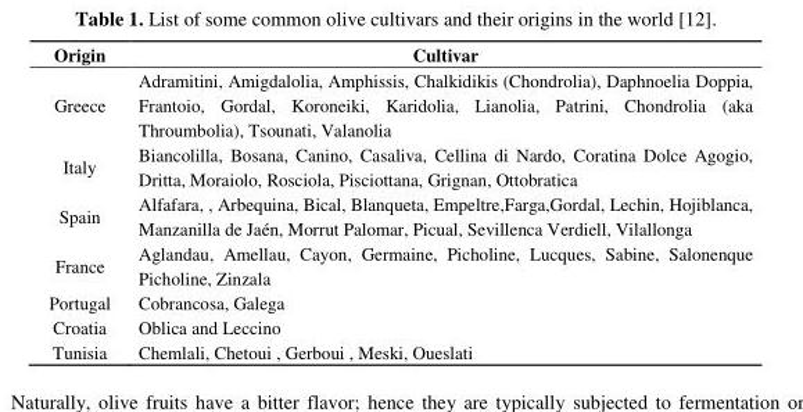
<table><thead><tr><td>Origin</td><td>Cultivar</td></tr></thead><tbody><tr><td>Greece</td><td>Adramitini, Amigdalolia, Amphissis, Chalkidikis (Chondrolia), Daphnoelia Doppia, Frantoio, Gordal, Koroneiki, Karidolia, Lianolia, Patrini, Chondrolia (aka Throumbolia), Tsounati, Valanolia</td></tr><tr><td>Italy</td><td>Biancolilla, Bosana, Canino, Casaliva, Cellina di Nardo, Coratina Dolce Agogio, Dritta, Moraiolo, Rosciola, Pisciottana, Grignan, Ottobratica</td></tr><tr><td>Spain</td><td>Alfafara, , Arbequina, Bical, Blanqueta, Empeltre,Farga,Gordal, Lechin, Hojiblanca, Manzanilla de Jaén, Morrut Palomar, Picual, Sevillenca Verdiell, Vilallonga</td></tr><tr><td>France</td><td>Aglandau, Amellau, Cayon, Germaine, Picholine, Lucques, Sabine, Salonenque Picholine, Zinzala</td></tr><tr><td>Portugal</td><td>Cobrancosa, Galega</td></tr><tr><td>Croatia</td><td>Oblica and Leccino</td></tr><tr><td>Tunisia</td><td>Chemlali, Chetoui , Gerboui , Meski, Oueslati</td></tr></tbody></table>